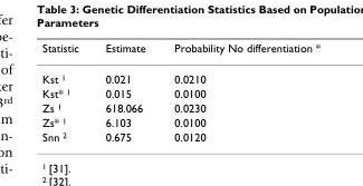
<table><thead><tr><td>Statistic</td><td>Estimate</td><td>Probability No differentiation *</td></tr></thead><tbody><tr><td>Kst <sup>1</sup></td><td>0.021</td><td>0.0210</td></tr><tr><td>Kst* <sup>1</sup></td><td>0.015</td><td>0.0100</td></tr><tr><td>Zs <sup>1</sup></td><td>618.066</td><td>0.0230</td></tr><tr><td>Zs* <sup>1</sup></td><td>6.103</td><td>0.0100</td></tr><tr><td>Snn <sup>2</sup></td><td>0.675</td><td>0.0120</td></tr></tbody></table>